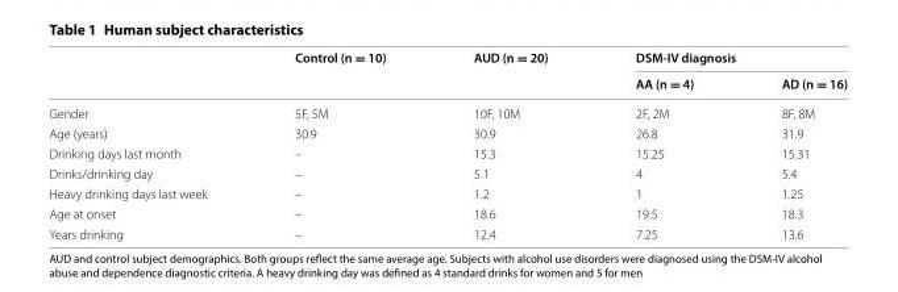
<table><thead><tr><td rowspan="2"></td><td rowspan="2">Control (n = 10)</td><td rowspan="2">AUD (n = 20)</td><td colspan="2">DSM-IV diagnosis</td></tr><tr><td>AA (n = 4)</td><td>AD (n = 16)</td></tr></thead><tbody><tr><td>Gender</td><td>5F, 5M</td><td>10F, 10M</td><td>2F, 2M</td><td>8F, 8M</td></tr><tr><td>Age (years)</td><td>30.9</td><td>30.9</td><td>26.8</td><td>31.9</td></tr><tr><td>Drinking days last month</td><td>–</td><td>15.3</td><td>15.25</td><td>15.31</td></tr><tr><td>Drinks/drinking day</td><td>–</td><td>5.1</td><td>4</td><td>5.4</td></tr><tr><td>Heavy drinking days last week</td><td>–</td><td>1.2</td><td>1</td><td>1.25</td></tr><tr><td>Age at onset</td><td>–</td><td>18.6</td><td>19.5</td><td>18.3</td></tr><tr><td>Years drinking</td><td>–</td><td>12.4</td><td>7.25</td><td>13.6</td></tr></tbody></table>